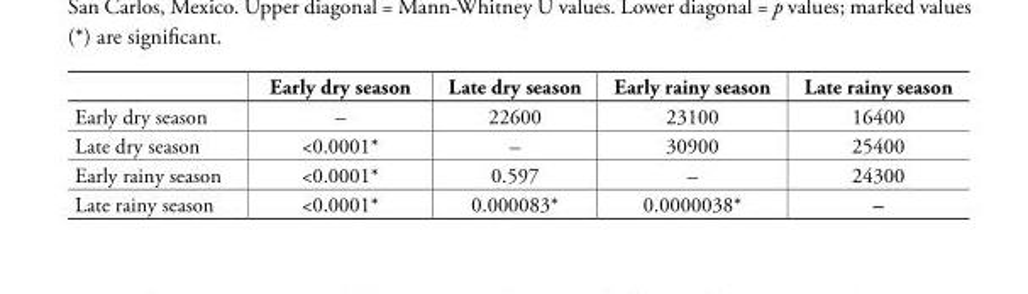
<table><thead><tr><td></td><td>Early dry season</td><td>Late dry season</td><td>Early rainy season</td><td>Late rainy season</td></tr></thead><tbody><tr><td>Early dry season</td><td>–</td><td>22600</td><td>23100</td><td>16400</td></tr><tr><td>Late dry season</td><td>&lt;0.0001*</td><td>–</td><td>30900</td><td>25400</td></tr><tr><td>Early rainy season</td><td>&lt;0.0001*</td><td>0.597</td><td>–</td><td>24300</td></tr><tr><td>Late rainy season</td><td>&lt;0.0001*</td><td>0.000083*</td><td>0.0000038*</td><td>–</td></tr></tbody></table>